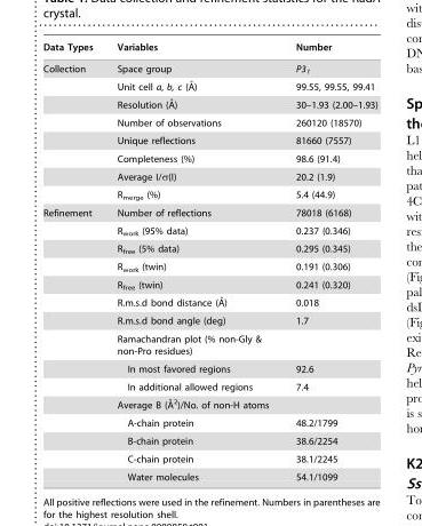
<table><thead><tr><td>Data Types</td><td>Variables</td><td>Number</td></tr></thead><tbody><tr><td rowspan="8">Collection</td><td>Space group</td><td>P3<sub>1</sub></td></tr><tr><td>Unit cell a, b, c (A˚)</td><td>99.55, 99.55, 99.41</td></tr><tr><td>Resolution (A˚)</td><td>30–1.93 (2.00–1.93)</td></tr><tr><td>Number of observations</td><td>260120 (18570)</td></tr><tr><td>Unique reflections</td><td>81660 (7557)</td></tr><tr><td>Completeness (%)</td><td>98.6 (91.4)</td></tr><tr><td>Average I/σ(I)</td><td>20.2 (1.9)</td></tr><tr><td>R<sub>merge</sub> (%)</td><td>5.4 (44.9)</td></tr><tr><td rowspan="15">Refinement</td><td>Number of reflections</td><td>78018 (6168)</td></tr><tr><td>R<sub>work</sub> (95% data)</td><td>0.237 (0.346)</td></tr><tr><td>R<sub>free</sub> (5% data)</td><td>0.295 (0.345)</td></tr><tr><td>R<sub>work</sub> (twin)</td><td>0.191 (0.306)</td></tr><tr><td>R<sub>free</sub> (twin)</td><td>0.241 (0.320)</td></tr><tr><td>R.m.s.d bond distance (A˚)</td><td>0.018</td></tr><tr><td>R.m.s.d bond angle (deg)</td><td>1.7</td></tr><tr><td>Ramachandran plot (% non-Gly &amp; non-Pro residues)</td><td></td></tr><tr><td>In most favored regions</td><td>92.6</td></tr><tr><td>In additional allowed regions</td><td>7.4</td></tr><tr><td>Average B (A˚ 2)/No. of non-H atoms</td><td></td></tr><tr><td>A-chain protein</td><td>48.2/1799</td></tr><tr><td>B-chain protein</td><td>38.6/2254</td></tr><tr><td>C-chain protein</td><td>38.1/2245</td></tr><tr><td>Water molecules</td><td>54.1/1099</td></tr></tbody></table>